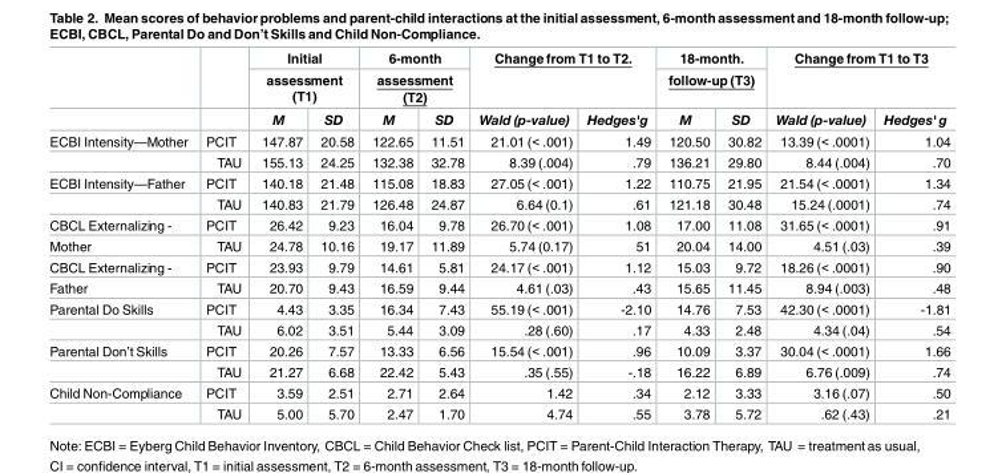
<table><thead><tr><td rowspan="3"></td><td rowspan="3"></td><td rowspan="2" colspan="2">Initial assessment (T1)</td><td rowspan="2" colspan="2">6-month assessment (T2)</td><td rowspan="2" colspan="2">Change from T1 to T2.</td><td rowspan="2" colspan="2">18-month. follow-up (T3)</td><td rowspan="2" colspan="2">Change from T1 to T3</td></tr><tr></tr><tr><td>M</td><td>SD</td><td>M</td><td>SD</td><td>Wald (p-value)</td><td>Hedges&#x27;g</td><td>M</td><td>SD</td><td>Wald (p-value)</td><td>Hedges&#x27; g</td></tr></thead><tbody><tr><td rowspan="2">ECBI Intensity—Mother</td><td>PCIT</td><td>147.87</td><td>20.58</td><td>122.65</td><td>11.51</td><td>21.01 (&lt; .001)</td><td>1.49</td><td>120.50</td><td>30.82</td><td>13.39 (&lt; .0001)</td><td>1.04</td></tr><tr><td>TAU</td><td>155.13</td><td>24.25</td><td>132.38</td><td>32.78</td><td>8.39 (.004)</td><td>.79</td><td>136.21</td><td>29.80</td><td>8.44 (.004)</td><td>.70</td></tr><tr><td rowspan="2">ECBI Intensity—Father</td><td>PCIT</td><td>140.18</td><td>21.48</td><td>115.08</td><td>18.83</td><td>27.05 (&lt; .001)</td><td>1.22</td><td>110.75</td><td>21.95</td><td>21.54 (&lt; .0001)</td><td>1.34</td></tr><tr><td>TAU</td><td>140.83</td><td>21.79</td><td>126.48</td><td>24.87</td><td>6.64 (0.1)</td><td>.61</td><td>121.18</td><td>30.48</td><td>15.24 (.0001)</td><td>.74</td></tr><tr><td>CBCL Externalizing -</td><td>PCIT</td><td>26.42</td><td>9.23</td><td>16.04</td><td>9.78</td><td>26.70 (&lt; .001)</td><td>1.08</td><td>17.00</td><td>11.08</td><td>31.65 (&lt; .0001)</td><td>.91</td></tr><tr><td>Mother</td><td>TAU</td><td>24.78</td><td>10.16</td><td>19.17</td><td>11.89</td><td>5.74 (0.17)</td><td>51</td><td>20.04</td><td>14.00</td><td>4.51 (.03)</td><td>.39</td></tr><tr><td>CBCL Externalizing -</td><td>PCIT</td><td>23.93</td><td>9.79</td><td>14.61</td><td>5.81</td><td>24.17 (&lt; .001)</td><td>1.12</td><td>15.03</td><td>9.72</td><td>18.26 (&lt; .0001)</td><td>.90</td></tr><tr><td>Father</td><td>TAU</td><td>20.70</td><td>9.43</td><td>16.59</td><td>9.44</td><td>4.61 (.03)</td><td>.43</td><td>15.65</td><td>11.45</td><td>8.94 (.003)</td><td>.48</td></tr><tr><td rowspan="2">Parental Do Skills</td><td>PCIT</td><td>4.43</td><td>3.35</td><td>16.34</td><td>7.43</td><td>55.19 (&lt; .001)</td><td>-2.10</td><td>14.76</td><td>7.53</td><td>42.30 (&lt; .0001)</td><td>-1.81</td></tr><tr><td>TAU</td><td>6.02</td><td>3.51</td><td>5.44</td><td>3.09</td><td>.28 (.60)</td><td>.17</td><td>4.33</td><td>2.48</td><td>4.34 (.04)</td><td>.54</td></tr><tr><td rowspan="2">Parental Don’t Skills</td><td>PCIT</td><td>20.26</td><td>7.57</td><td>13.33</td><td>6.56</td><td>15.54 (&lt; .001)</td><td>.96</td><td>10.09</td><td>3.37</td><td>30.04 (&lt; .0001)</td><td>1.66</td></tr><tr><td>TAU</td><td>21.27</td><td>6.68</td><td>22.42</td><td>5.43</td><td>.35 (.55)</td><td>-.18</td><td>16.22</td><td>6.89</td><td>6.76 (.009)</td><td>.74</td></tr><tr><td rowspan="2">Child Non-Compliance</td><td>PCIT</td><td>3.59</td><td>2.51</td><td>2.71</td><td>2.64</td><td>1.42</td><td>.34</td><td>2.12</td><td>3.33</td><td>3.16 (.07)</td><td>.50</td></tr><tr><td>TAU</td><td>5.00</td><td>5.70</td><td>2.47</td><td>1.70</td><td>4.74</td><td>.55</td><td>3.78</td><td>5.72</td><td>.62 (.43)</td><td>.21</td></tr></tbody></table>